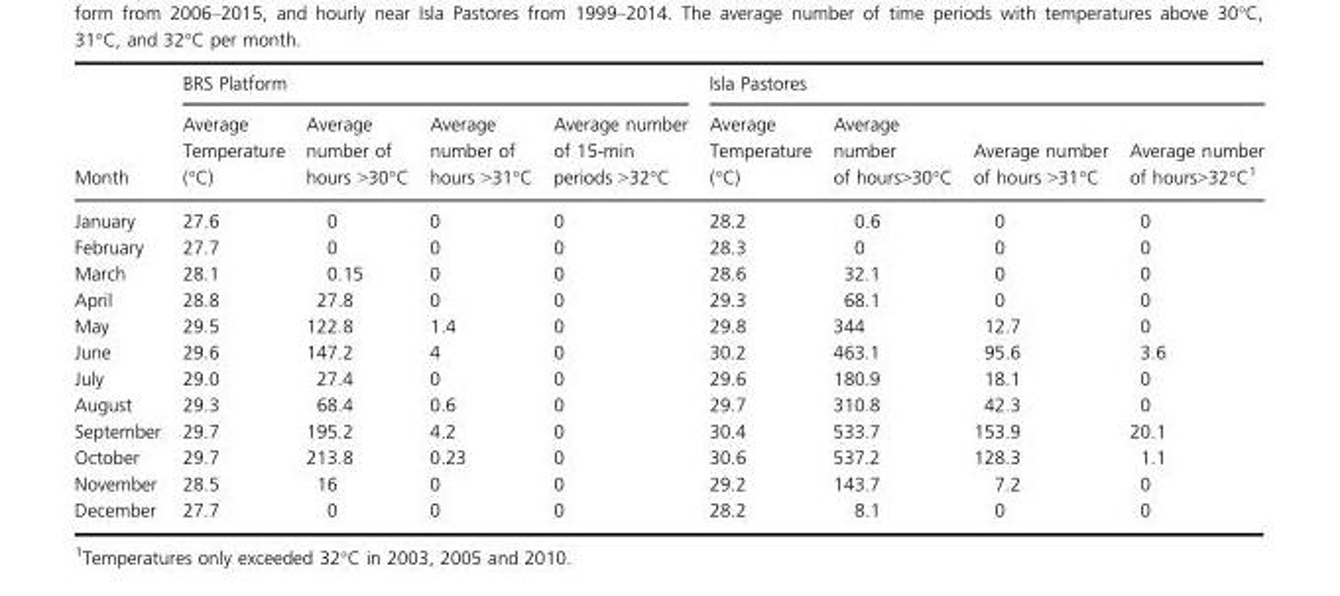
<table><thead><tr><td rowspan="2">Month</td><td colspan="4">BRS Platform</td><td colspan="4">Isla Pastores</td></tr><tr><td>Average Temperature (°C)</td><td>Average number of hours &gt;30°C</td><td>Average number of hours &gt;31°C</td><td>Average number of 15-min periods &gt;32°C</td><td>Average Temperature (°C)</td><td>Average number of hours&gt;30°C</td><td>Average number of hours &gt;31°C</td><td>Average number of hours&gt;32°C1</td></tr></thead><tbody><tr><td>January</td><td>27.6</td><td>0</td><td>0</td><td>0</td><td>28.2</td><td>0.6</td><td>0</td><td>0</td></tr><tr><td>February</td><td>27.7</td><td>0</td><td>0</td><td>0</td><td>28.3</td><td>0</td><td>0</td><td>0</td></tr><tr><td>March</td><td>28.1</td><td>0.15</td><td>0</td><td>0</td><td>28.6</td><td>32.1</td><td>0</td><td>0</td></tr><tr><td>April</td><td>28.8</td><td>27.8</td><td>0</td><td>0</td><td>29.3</td><td>68.1</td><td>0</td><td>0</td></tr><tr><td>May</td><td>29.5</td><td>122.8</td><td>1.4</td><td>0</td><td>29.8</td><td>344</td><td>12.7</td><td>0</td></tr><tr><td>June</td><td>29.6</td><td>147.2</td><td>4</td><td>0</td><td>30.2</td><td>463.1</td><td>95.6</td><td>3.6</td></tr><tr><td>July</td><td>29.0</td><td>27.4</td><td>0</td><td>0</td><td>29.6</td><td>180.9</td><td>18.1</td><td>0</td></tr><tr><td>August</td><td>29.3</td><td>68.4</td><td>0.6</td><td>0</td><td>29.7</td><td>310.8</td><td>42.3</td><td>0</td></tr><tr><td>September</td><td>29.7</td><td>195.2</td><td>4.2</td><td>0</td><td>30.4</td><td>533.7</td><td>153.9</td><td>20.1</td></tr><tr><td>October</td><td>29.7</td><td>213.8</td><td>0.23</td><td>0</td><td>30.6</td><td>537.2</td><td>128.3</td><td>1.1</td></tr><tr><td>November</td><td>28.5</td><td>16</td><td>0</td><td>0</td><td>29.2</td><td>143.7</td><td>7.2</td><td>0</td></tr><tr><td>December</td><td>27.7</td><td>0</td><td>0</td><td>0</td><td>28.2</td><td>8.1</td><td>0</td><td>0</td></tr></tbody></table>